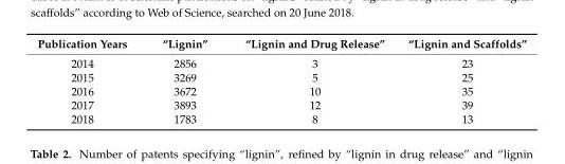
<table><thead><tr><td>Publication Years</td><td>“Lignin”</td><td>“Lignin and Drug Release”</td><td>“Lignin and Scaffolds”</td></tr></thead><tbody><tr><td>2014</td><td>2856</td><td>3</td><td>23</td></tr><tr><td>2015</td><td>3269</td><td>5</td><td>25</td></tr><tr><td>2016</td><td>3672</td><td>10</td><td>35</td></tr><tr><td>2017</td><td>3893</td><td>12</td><td>39</td></tr><tr><td>2018</td><td>1783</td><td>8</td><td>13</td></tr></tbody></table>